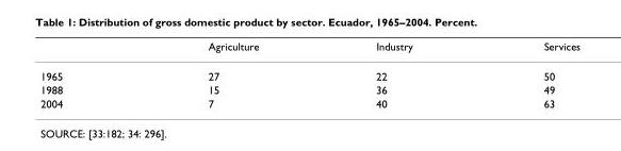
<table><thead><tr><td></td><td>Agriculture</td><td>Industry</td><td>Services</td></tr></thead><tbody><tr><td>1965</td><td>27</td><td>22</td><td>50</td></tr><tr><td>1988</td><td>15</td><td>36</td><td>49</td></tr><tr><td>2004</td><td>7</td><td>40</td><td>63</td></tr></tbody></table>